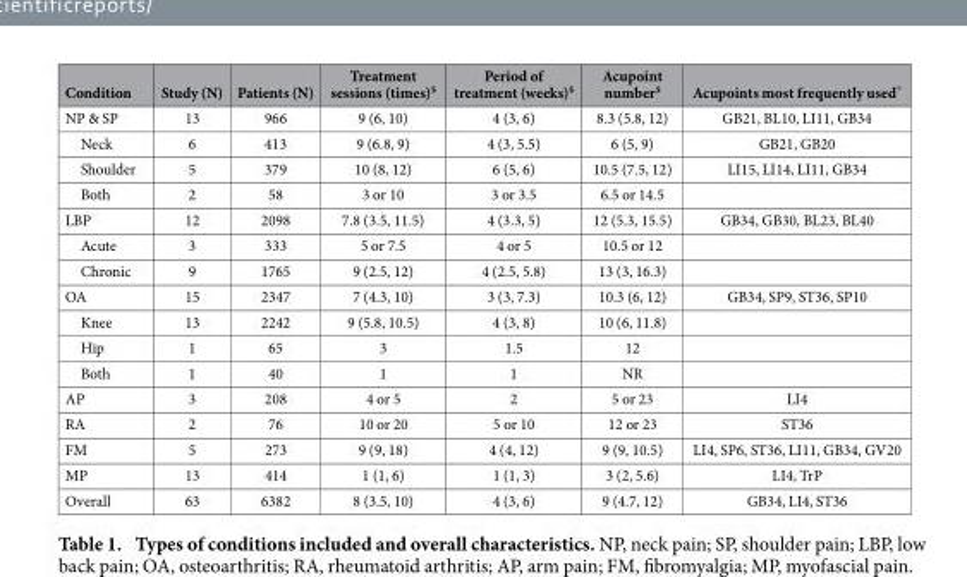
<table><thead><tr><td>Condition</td><td>Study (N)</td><td>Patients (N)</td><td>Treatment sessions (times)$</td><td>Period of treatment (weeks)$</td><td>Acupoint number$</td><td>Acupoints most frequently used*</td></tr></thead><tbody><tr><td>NP &amp; SP</td><td>13</td><td>966</td><td>9 (6, 10)</td><td>4 (3, 6)</td><td>8.3 (5.8, 12)</td><td>GB21, BL10, LI11, GB34</td></tr><tr><td>Neck</td><td>6</td><td>413</td><td>9 (6.8, 9)</td><td>4 (3, 5.5)</td><td>6 (5, 9)</td><td>GB21, GB20</td></tr><tr><td>Shoulder</td><td>5</td><td>379</td><td>10 (8, 12)</td><td>6 (5, 6)</td><td>10.5 (7.5, 12)</td><td>LI15, LI14, LI11, GB34</td></tr><tr><td>Both</td><td>2</td><td>58</td><td>3 or 10</td><td>3 or 3.5</td><td>6.5 or 14.5</td><td></td></tr><tr><td>LBP</td><td>12</td><td>2098</td><td>7.8 (3.5, 11.5)</td><td>4 (3.3, 5)</td><td>12 (5.3, 15.5)</td><td>GB34, GB30, BL23, BL40</td></tr><tr><td>Acute</td><td>3</td><td>333</td><td>5 or 7.5</td><td>4 or 5</td><td>10.5 or 12</td><td></td></tr><tr><td>Chronic</td><td>9</td><td>1765</td><td>9 (2.5, 12)</td><td>4 (2.5, 5.8)</td><td>13 (3, 16.3)</td><td></td></tr><tr><td>OA</td><td>15</td><td>2347</td><td>7 (4.3, 10)</td><td>3 (3, 7.3)</td><td>10.3 (6, 12)</td><td>GB34, SP9, ST36, SP10</td></tr><tr><td>Knee</td><td>13</td><td>2242</td><td>9 (5.8, 10.5)</td><td>4 (3, 8)</td><td>10 (6, 11.8)</td><td></td></tr><tr><td>Hip</td><td>1</td><td>65</td><td>3</td><td>1.5</td><td>12</td><td></td></tr><tr><td>Both</td><td>1</td><td>40</td><td>1</td><td>1</td><td>NR</td><td></td></tr><tr><td>AP</td><td>3</td><td>208</td><td>4 or 5</td><td>2</td><td>5 or 23</td><td>LI4</td></tr><tr><td>RA</td><td>2</td><td>76</td><td>10 or 20</td><td>5 or 10</td><td>12 or 23</td><td>ST36</td></tr><tr><td>FM</td><td>5</td><td>273</td><td>9 (9, 18)</td><td>4 (4, 12)</td><td>9 (9, 10.5)</td><td>LI4, SP6, ST36, LI11, GB34, GV20</td></tr><tr><td>MP</td><td>13</td><td>414</td><td>1 (1, 6)</td><td>1 (1, 3)</td><td>3 (2, 5.6)</td><td>LI4, TrP</td></tr><tr><td>Overall</td><td>63</td><td>6382</td><td>8 (3.5, 10)</td><td>4 (3, 6)</td><td>9 (4.7, 12)</td><td>GB34, LI4, ST36</td></tr></tbody></table>